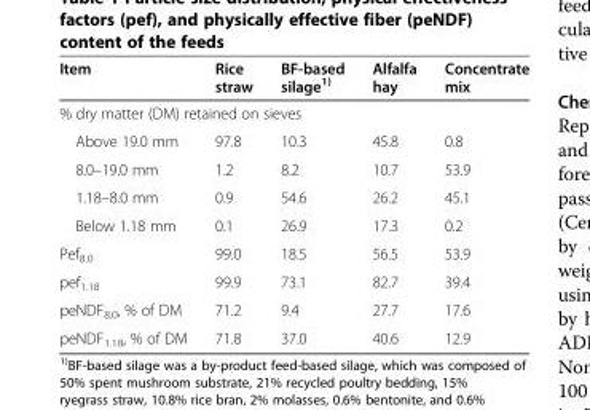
<table><thead><tr><td>Item</td><td>Rice straw</td><td>BF-based silage<sup>1)</sup></td><td>Alfalfa hay</td><td>Concentrate mix</td></tr></thead><tbody><tr><td colspan="5">% dry matter (DM) retained on sieves</td></tr><tr><td>Above 19.0 mm</td><td>97.8</td><td>10.3</td><td>45.8</td><td>0.8</td></tr><tr><td>8.0–19.0 mm</td><td>1.2</td><td>8.2</td><td>10.7</td><td>53.9</td></tr><tr><td>1.18–8.0 mm</td><td>0.9</td><td>54.6</td><td>26.2</td><td>45.1</td></tr><tr><td>Below 1.18 mm</td><td>0.1</td><td>26.9</td><td>17.3</td><td>0.2</td></tr><tr><td>Pef<sub>8.0</sub></td><td>99.0</td><td>18.5</td><td>56.5</td><td>53.9</td></tr><tr><td>pef<sub>1.18</sub></td><td>99.9</td><td>73.1</td><td>82.7</td><td>39.4</td></tr><tr><td>peNDF<sub>8.0</sub>, % of DM</td><td>71.2</td><td>9.4</td><td>27.7</td><td>17.6</td></tr><tr><td>peNDF<sub>1.18</sub>, % of DM</td><td>71.8</td><td>37.0</td><td>40.6</td><td>12.9</td></tr></tbody></table>